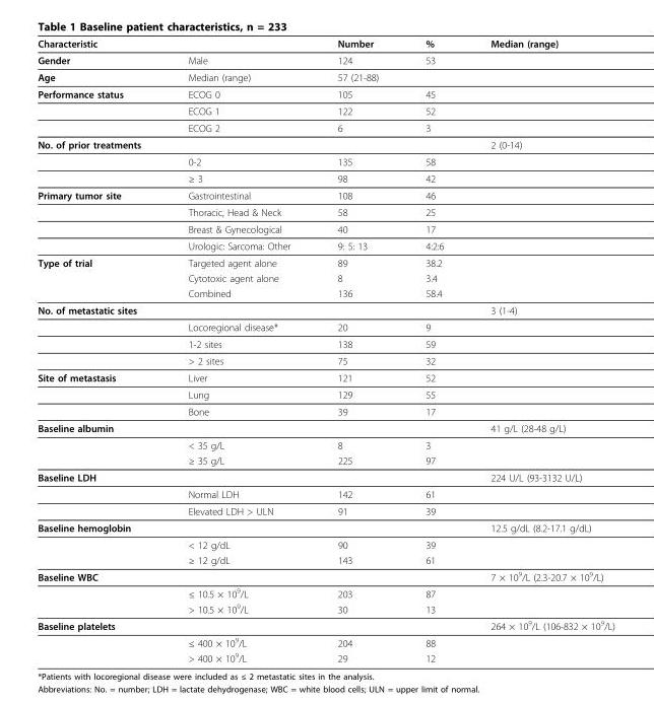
<table><thead><tr><td>Characteristic</td><td></td><td>Number</td><td>%</td><td>Median (range)</td></tr></thead><tbody><tr><td>Gender</td><td>Male</td><td>124</td><td>53</td><td></td></tr><tr><td>Age</td><td>Median (range)</td><td>57 (21-88)</td><td></td><td></td></tr><tr><td rowspan="3">Performance status</td><td>ECOG 0</td><td>105</td><td>45</td><td></td></tr><tr><td>ECOG 1</td><td>122</td><td>52</td><td></td></tr><tr><td>ECOG 2</td><td>6</td><td>3</td><td></td></tr><tr><td rowspan="3">No. of prior treatments</td><td></td><td></td><td></td><td>2 (0-14)</td></tr><tr><td>0-2</td><td>135</td><td>58</td><td></td></tr><tr><td>≥ 3</td><td>98</td><td>42</td><td></td></tr><tr><td rowspan="4">Primary tumor site</td><td>Gastrointestinal</td><td>108</td><td>46</td><td></td></tr><tr><td>Thoracic, Head &amp; Neck</td><td>58</td><td>25</td><td></td></tr><tr><td>Breast &amp; Gynecological</td><td>40</td><td>17</td><td></td></tr><tr><td>Urologic: Sarcoma: Other</td><td>9: 5: 13</td><td>4:2:6</td><td></td></tr><tr><td rowspan="3">Type of trial</td><td>Targeted agent alone</td><td>89</td><td>38.2</td><td></td></tr><tr><td>Cytotoxic agent alone</td><td>8</td><td>3.4</td><td></td></tr><tr><td>Combined</td><td>136</td><td>58.4</td><td></td></tr><tr><td rowspan="4">No. of metastatic sites</td><td></td><td></td><td></td><td>3 (1-4)</td></tr><tr><td>Locoregional disease*</td><td>20</td><td>9</td><td></td></tr><tr><td>1-2 sites</td><td>138</td><td>59</td><td></td></tr><tr><td>&gt; 2 sites</td><td>75</td><td>32</td><td></td></tr><tr><td rowspan="3">Site of metastasis</td><td>Liver</td><td>121</td><td>52</td><td></td></tr><tr><td>Lung</td><td>129</td><td>55</td><td></td></tr><tr><td>Bone</td><td>39</td><td>17</td><td></td></tr><tr><td rowspan="3">Baseline albumin</td><td></td><td></td><td></td><td>41 g/L (28-48 g/L)</td></tr><tr><td>&lt; 35 g/L</td><td>8</td><td>3</td><td></td></tr><tr><td>≥ 35 g/L</td><td>225</td><td>97</td><td></td></tr><tr><td rowspan="3">Baseline LDH</td><td></td><td></td><td></td><td>224 U/L (93-3132 U/L)</td></tr><tr><td>Normal LDH</td><td>142</td><td>61</td><td></td></tr><tr><td>Elevated LDH &gt; ULN</td><td>91</td><td>39</td><td></td></tr><tr><td rowspan="3">Baseline hemoglobin</td><td></td><td></td><td></td><td>12.5 g/dL (8.2-17.1 g/dL)</td></tr><tr><td>&lt; 12 g/dL</td><td>90</td><td>39</td><td></td></tr><tr><td>≥ 12 g/dL</td><td>143</td><td>61</td><td></td></tr><tr><td rowspan="3">Baseline WBC</td><td></td><td></td><td></td><td>7 × 10<sup>9</sup>/L (2.3-20.7 × 10<sup>9</sup>/L)</td></tr><tr><td>≤ 10.5 × 10<sup>9</sup>/L</td><td>203</td><td>87</td><td></td></tr><tr><td>&gt; 10.5 × 10<sup>9</sup>/L</td><td>30</td><td>13</td><td></td></tr><tr><td rowspan="3">Baseline platelets</td><td></td><td></td><td></td><td>264 × 10<sup>9</sup>/L (106-832 × 10<sup>9</sup>/L)</td></tr><tr><td>≤ 400 × 10<sup>9</sup>/L</td><td>204</td><td>88</td><td></td></tr><tr><td>&gt; 400 × 10<sup>9</sup>/L</td><td>29</td><td>12</td><td></td></tr></tbody></table>